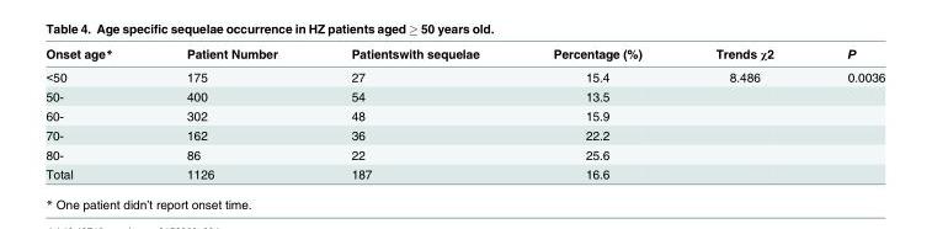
<table><thead><tr><td>Onset age*</td><td>Patient Number</td><td>Patientswith sequelae</td><td>Percentage (%)</td><td>Trends χ2</td><td>P</td></tr></thead><tbody><tr><td>&lt;50</td><td>175</td><td>27</td><td>15.4</td><td>8.486</td><td>0.0036</td></tr><tr><td>50-</td><td>400</td><td>54</td><td>13.5</td><td></td><td></td></tr><tr><td>60-</td><td>302</td><td>48</td><td>15.9</td><td></td><td></td></tr><tr><td>70-</td><td>162</td><td>36</td><td>22.2</td><td></td><td></td></tr><tr><td>80-</td><td>86</td><td>22</td><td>25.6</td><td></td><td></td></tr><tr><td>Total</td><td>1126</td><td>187</td><td>16.6</td><td></td><td></td></tr></tbody></table>